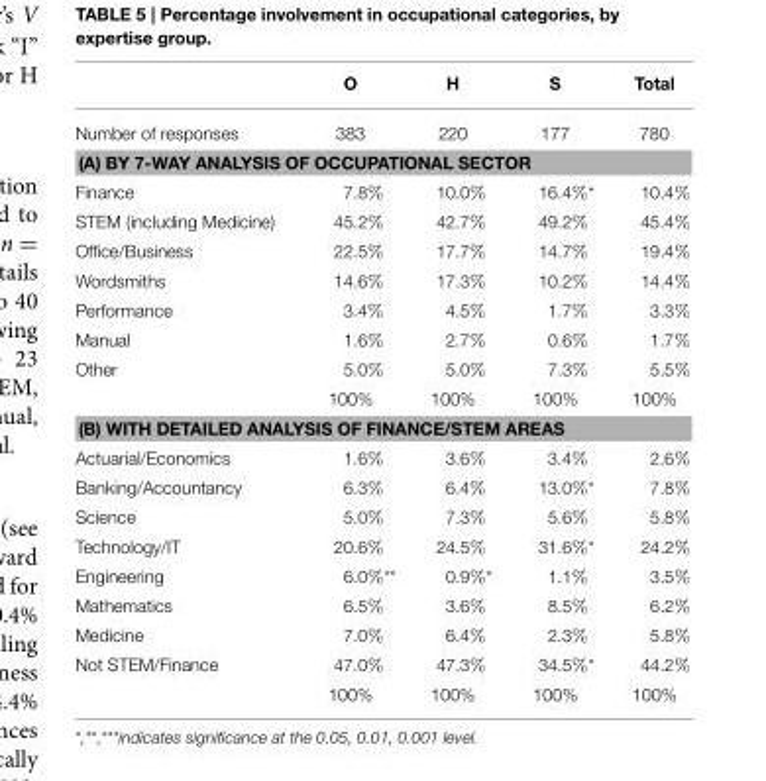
<table><thead><tr><td></td><td>O</td><td>H</td><td>S</td><td>Total</td></tr></thead><tbody><tr><td>Number of responses</td><td>383</td><td>220</td><td>177</td><td>780</td></tr><tr><td colspan="5">(A) BY 7-WAY ANALYSIS OF OCCUPATIONAL SECTOR</td></tr><tr><td>Finance</td><td>7.8%</td><td>10.0%</td><td>16.4%*</td><td>10.4%</td></tr><tr><td>STEM (including Medicine)</td><td>45.2%</td><td>42.7%</td><td>49.2%</td><td>45.4%</td></tr><tr><td>Office/Business</td><td>22.5%</td><td>17.7%</td><td>14.7%</td><td>19.4%</td></tr><tr><td>Wordsmiths</td><td>14.6%</td><td>17.3%</td><td>10.2%</td><td>14.4%</td></tr><tr><td>Performance</td><td>3.4%</td><td>4.5%</td><td>1.7%</td><td>3.3%</td></tr><tr><td>Manual</td><td>1.6%</td><td>2.7%</td><td>0.6%</td><td>1.7%</td></tr><tr><td rowspan="2">Other</td><td>5.0%</td><td>5.0%</td><td>7.3%</td><td>5.5%</td></tr><tr><td>100%</td><td>100%</td><td>100%</td><td>100%</td></tr><tr><td colspan="5">(B) WITH DETAILED ANALYSIS OF FINANCE/STEM AREAS</td></tr><tr><td>Actuarial/Economics</td><td>1.6%</td><td>3.6%</td><td>3.4%</td><td>2.6%</td></tr><tr><td>Banking/Accountancy</td><td>6.3%</td><td>6.4%</td><td>13.0%*</td><td>7.8%</td></tr><tr><td>Science</td><td>5.0%</td><td>7.3%</td><td>5.6%</td><td>5.8%</td></tr><tr><td>Technology/IT</td><td>20.6%</td><td>24.5%</td><td>31.6%*</td><td>24.2%</td></tr><tr><td>Engineering</td><td>6.0%**</td><td>0.9%*</td><td>1.1%</td><td>3.5%</td></tr><tr><td>Mathematics</td><td>6.5%</td><td>3.6%</td><td>8.5%</td><td>6.2%</td></tr><tr><td>Medicine</td><td>7.0%</td><td>6.4%</td><td>2.3%</td><td>5.8%</td></tr><tr><td rowspan="2">Not STEM/Finance</td><td>47.0%</td><td>47.3%</td><td>34.5%*</td><td>44.2%</td></tr><tr><td>100%</td><td>100%</td><td>100%</td><td>100%</td></tr></tbody></table>